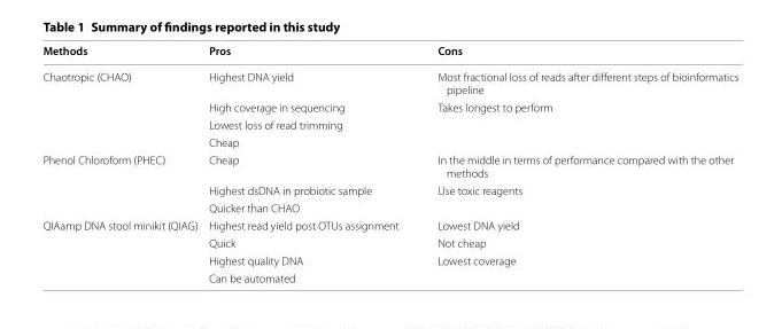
<table><thead><tr><td>Methods</td><td>Pros</td><td>Cons</td></tr></thead><tbody><tr><td rowspan="4">Chaotropic (CHAO)</td><td>Highest DNA yield</td><td>Most fractional loss of reads after different steps of bioinformatics pipeline</td></tr><tr><td>High coverage in sequencing</td><td>Takes longest to perform</td></tr><tr><td>Lowest loss of read trimming</td><td></td></tr><tr><td>Cheap</td><td></td></tr><tr><td rowspan="3">Phenol Chloroform (PHEC)</td><td>Cheap</td><td>In the middle in terms of performance compared with the other methods</td></tr><tr><td>Highest dsDNA in probiotic sample</td><td>Use toxic reagents</td></tr><tr><td>Quicker than CHAO</td><td></td></tr><tr><td rowspan="4">QIAamp DNA stool minikit (QIAG)</td><td>Highest read yield post OTUs assignment</td><td>Lowest DNA yield</td></tr><tr><td>Quick</td><td>Not cheap</td></tr><tr><td>Highest quality DNA</td><td>Lowest coverage</td></tr><tr><td>Can be automated</td><td></td></tr></tbody></table>